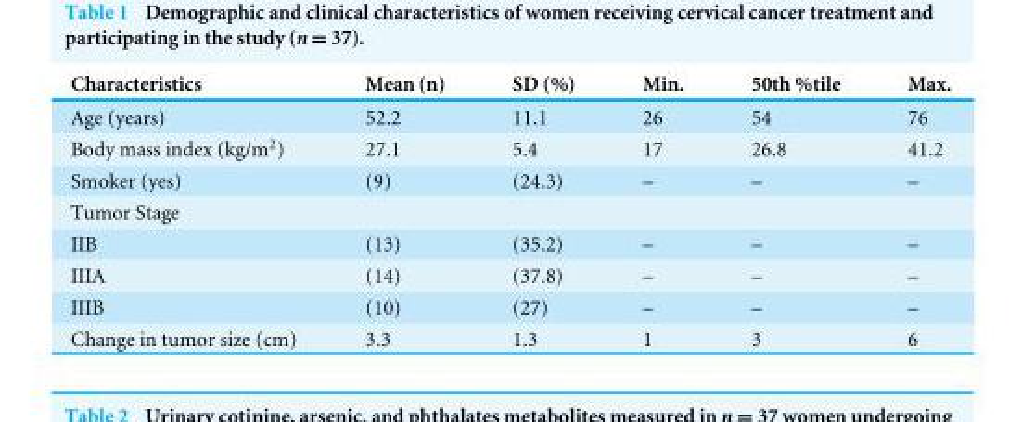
<table><thead><tr><td>Characteristics</td><td>Mean (n)</td><td>SD (%)</td><td>Min.</td><td>50th %tile</td><td>Max.</td></tr></thead><tbody><tr><td>Age (years)</td><td>52.2</td><td>11.1</td><td>26</td><td>54</td><td>76</td></tr><tr><td>Body mass index (kg/m<sup>2</sup>)</td><td>27.1</td><td>5.4</td><td>17</td><td>26.8</td><td>41.2</td></tr><tr><td>Smoker (yes)</td><td>(9)</td><td>(24.3)</td><td>–</td><td>–</td><td>–</td></tr><tr><td colspan="6">Tumor Stage</td></tr><tr><td>IIB</td><td>(13)</td><td>(35.2)</td><td>–</td><td>–</td><td>–</td></tr><tr><td>IIIA</td><td>(14)</td><td>(37.8)</td><td>–</td><td>–</td><td>–</td></tr><tr><td>IIIB</td><td>(10)</td><td>(27)</td><td>–</td><td>–</td><td>–</td></tr><tr><td>Change in tumor size (cm)</td><td>3.3</td><td>1.3</td><td>1</td><td>3</td><td>6</td></tr></tbody></table>